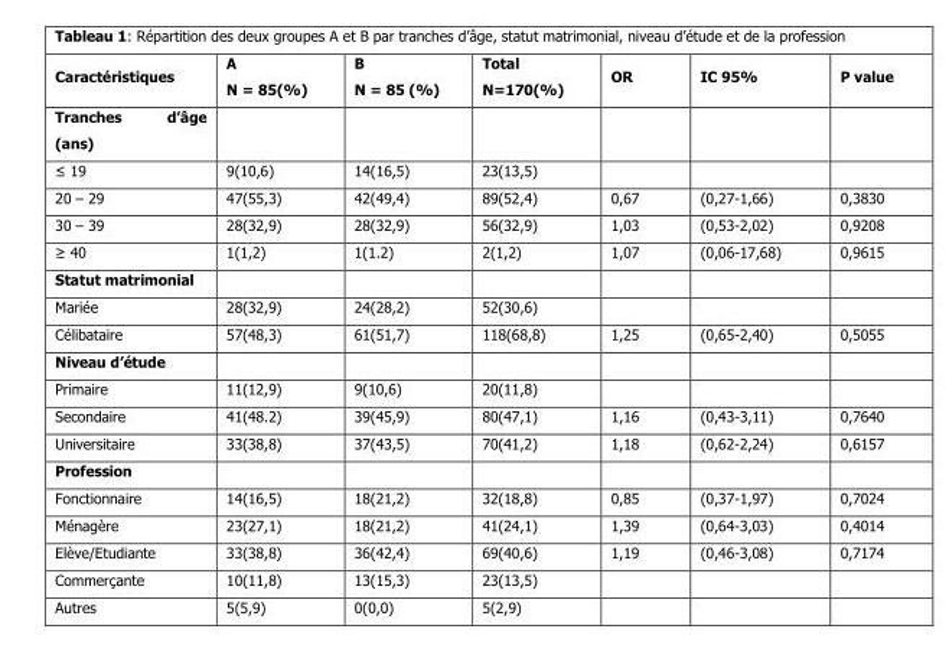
<table><thead><tr><td>Caractéristiques</td><td>A N = 85(%)</td><td>B N = 85 (%)</td><td>Total N=170(%)</td><td>OR</td><td>IC 95%</td><td>P value</td></tr></thead><tbody><tr><td colspan="7">Tranches d’âge (ans)</td></tr><tr><td>≤ 19</td><td>9(10,6)</td><td>14(16,5)</td><td>23(13,5)</td><td></td><td></td><td></td></tr><tr><td>20 – 29</td><td>47(55,3)</td><td>42(49,4)</td><td>89(52,4)</td><td>0,67</td><td>(0,27-1,66)</td><td>0,3830</td></tr><tr><td>30 – 39</td><td>28(32,9)</td><td>28(32,9)</td><td>56(32,9)</td><td>1,03</td><td>(0,53-2,02)</td><td>0,9208</td></tr><tr><td>≥ 40</td><td>1(1,2)</td><td>1(1.2)</td><td>2(1,2)</td><td>1,07</td><td>(0,06-17,68)</td><td>0,9615</td></tr><tr><td colspan="7">Statut matrimonial</td></tr><tr><td>Mariée</td><td>28(32,9)</td><td>24(28,2)</td><td>52(30,6)</td><td></td><td></td><td></td></tr><tr><td>Célibataire</td><td>57(48,3)</td><td>61(51,7)</td><td>118(68,8)</td><td>1,25</td><td>(0,65-2,40)</td><td>0,5055</td></tr><tr><td colspan="7">Niveau d’étude</td></tr><tr><td>Primaire</td><td>11(12,9)</td><td>9(10,6)</td><td>20(11,8)</td><td></td><td></td><td></td></tr><tr><td>Secondaire</td><td>41(48.2)</td><td>39(45,9)</td><td>80(47,1)</td><td>1,16</td><td>(0,43-3,11)</td><td>0,7640</td></tr><tr><td>Universitaire</td><td>33(38,8)</td><td>37(43,5)</td><td>70(41,2)</td><td>1,18</td><td>(0,62-2,24)</td><td>0,6157</td></tr><tr><td colspan="7">Profession</td></tr><tr><td>Fonctionnaire</td><td>14(16,5)</td><td>18(21,2)</td><td>32(18,8)</td><td>0,85</td><td>(0,37-1,97)</td><td>0,7024</td></tr><tr><td>Ménagère</td><td>23(27,1)</td><td>18(21,2)</td><td>41(24,1)</td><td>1,39</td><td>(0,64-3,03)</td><td>0,4014</td></tr><tr><td>Elève/Etudiante</td><td>33(38,8)</td><td>36(42,4)</td><td>69(40,6)</td><td>1,19</td><td>(0,46-3,08)</td><td>0,7174</td></tr><tr><td>Commerçante</td><td>10(11,8)</td><td>13(15,3)</td><td>23(13,5)</td><td></td><td></td><td></td></tr><tr><td>Autres</td><td>5(5,9)</td><td>0(0,0)</td><td>5(2,9)</td><td></td><td></td><td></td></tr></tbody></table>